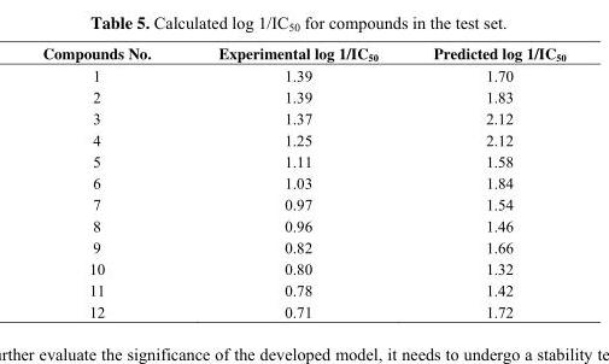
<table><thead><tr><td>Compounds No.</td><td>Experimental log 1/IC<sub>50</sub></td><td>Predicted log 1/IC<sub>50</sub></td></tr></thead><tbody><tr><td>1</td><td>1.39</td><td>1.70</td></tr><tr><td>2</td><td>1.39</td><td>1.83</td></tr><tr><td>3</td><td>1.37</td><td>2.12</td></tr><tr><td>4</td><td>1.25</td><td>2.12</td></tr><tr><td>5</td><td>1.11</td><td>1.58</td></tr><tr><td>6</td><td>1.03</td><td>1.84</td></tr><tr><td>7</td><td>0.97</td><td>1.54</td></tr><tr><td>8</td><td>0.96</td><td>1.46</td></tr><tr><td>9</td><td>0.82</td><td>1.66</td></tr><tr><td>10</td><td>0.80</td><td>1.32</td></tr><tr><td>11</td><td>0.78</td><td>1.42</td></tr><tr><td>12</td><td>0.71</td><td>1.72</td></tr></tbody></table>